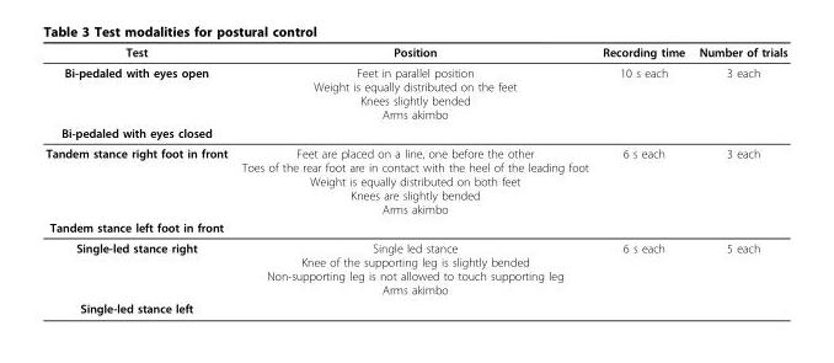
<table><thead><tr><td>Test</td><td>Position</td><td>Recording time</td><td>Number of trials</td></tr></thead><tbody><tr><td>Bi-pedaled with eyes open</td><td>Feet in parallel position Weight is equally distributed on the feet Knees slightly bended Arms akimbo</td><td>10 s each</td><td>3 each</td></tr><tr><td colspan="4">Bi-pedaled with eyes closed</td></tr><tr><td>Tandem stance right foot in front</td><td>Feet are placed on a line, one before the other Toes of the rear foot are in contact with the heel of the leading foot Weight is equally distributed on both feet Knees are slightly bended Arms akimbo</td><td>6 s each</td><td>3 each</td></tr><tr><td colspan="4">Tandem stance left foot in front</td></tr><tr><td>Single-led stance right</td><td>Single led stance Knee of the supporting leg is slightly bended Non-supporting leg is not allowed to touch supporting leg Arms akimbo</td><td>6 s each</td><td>5 each</td></tr><tr><td>Single-led stance left</td><td></td><td></td><td></td></tr></tbody></table>